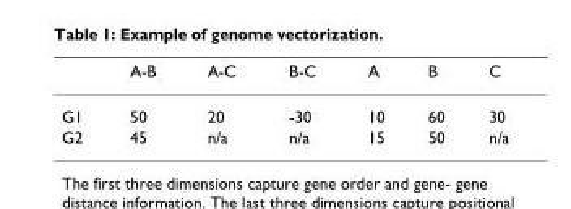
<table><thead><tr><td></td><td>A-B</td><td>A-C</td><td>B-C</td><td>A</td><td>B</td><td>C</td></tr></thead><tbody><tr><td>G1</td><td>50</td><td>20</td><td>-30</td><td>10</td><td>60</td><td>30</td></tr><tr><td>G2</td><td>45</td><td>n/a</td><td>n/a</td><td>15</td><td>50</td><td>n/a</td></tr></tbody></table>